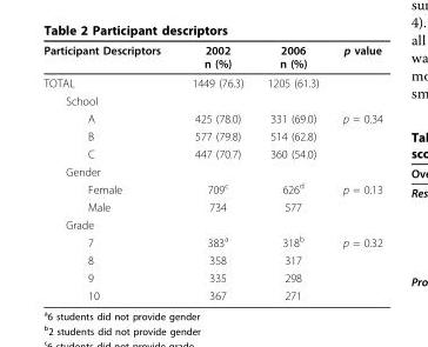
<table><thead><tr><td>Participant Descriptors</td><td>2002 n (%)</td><td>2006 n (%)</td><td>p value</td></tr></thead><tbody><tr><td>TOTAL</td><td>1449 (76.3)</td><td>1205 (61.3)</td><td></td></tr><tr><td colspan="4">School</td></tr><tr><td>A</td><td>425 (78.0)</td><td>331 (69.0)</td><td>p = 0.34</td></tr><tr><td>B</td><td>577 (79.8)</td><td>514 (62.8)</td><td></td></tr><tr><td>C</td><td>447 (70.7)</td><td>360 (54.0)</td><td></td></tr><tr><td colspan="4">Gender</td></tr><tr><td>Female</td><td>709<sup>c</sup></td><td>626<sup>d</sup></td><td>p = 0.13</td></tr><tr><td>Male</td><td>734</td><td>577</td><td></td></tr><tr><td colspan="4">Grade</td></tr><tr><td>7</td><td>383<sup>a</sup></td><td>318<sup>b</sup></td><td>p = 0.32</td></tr><tr><td>8</td><td>358</td><td>317</td><td></td></tr><tr><td>9</td><td>335</td><td>298</td><td></td></tr><tr><td>10</td><td>367</td><td>271</td><td></td></tr></tbody></table>